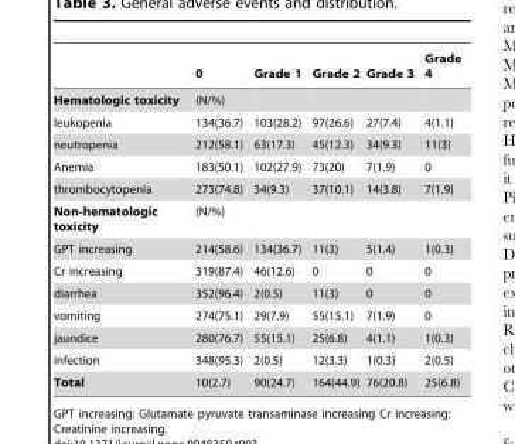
<table><thead><tr><td></td><td>0</td><td>Grade 1</td><td>Grade 2</td><td>Grade 3</td><td>Grade 4</td></tr></thead><tbody><tr><td>Hematologic toxicity</td><td>(N/%)</td><td></td><td></td><td></td><td></td></tr><tr><td>leukopenia</td><td>134(36.7)</td><td>103(28.2)</td><td>97(26.6)</td><td>27(7.4)</td><td>4(1.1)</td></tr><tr><td>neutropenia</td><td>212(58.1)</td><td>63(17.3)</td><td>45(12.3)</td><td>34(9.3)</td><td>11(3)</td></tr><tr><td>Anemia</td><td>183(50.1)</td><td>102(27.9)</td><td>73(20)</td><td>7(1.9)</td><td>0</td></tr><tr><td>thrombocytopenia</td><td>273(74.8)</td><td>34(9.3)</td><td>37(10.1)</td><td>14(3.8)</td><td>7(1.9)</td></tr><tr><td>Non-hematologic toxicity</td><td>(N/%)</td><td></td><td></td><td></td><td></td></tr><tr><td>GPT increasing</td><td>214(58.6)</td><td>134(36.7)</td><td>11(3)</td><td>5(1.4)</td><td>1(0.3)</td></tr><tr><td>Cr increasing</td><td>319(87.4)</td><td>46(12.6)</td><td>0</td><td>0</td><td>0</td></tr><tr><td>diarrhea</td><td>352(96.4)</td><td>2(0.5)</td><td>11(3)</td><td>0</td><td>0</td></tr><tr><td>vomiting</td><td>274(75.1)</td><td>29(7.9)</td><td>55(15.1)</td><td>7(1.9)</td><td>0</td></tr><tr><td>jaundice</td><td>280(76.7)</td><td>55(15.1)</td><td>25(6.8)</td><td>4(1.1)</td><td>1(0.3)</td></tr><tr><td>infection</td><td>348(95.3)</td><td>2(0.5)</td><td>12(3.3)</td><td>1(0.3)</td><td>2(0.5)</td></tr><tr><td>Total</td><td>10(2.7)</td><td>90(24.7)</td><td>164(44.9)</td><td>76(20.8)</td><td>25(6.8)</td></tr></tbody></table>